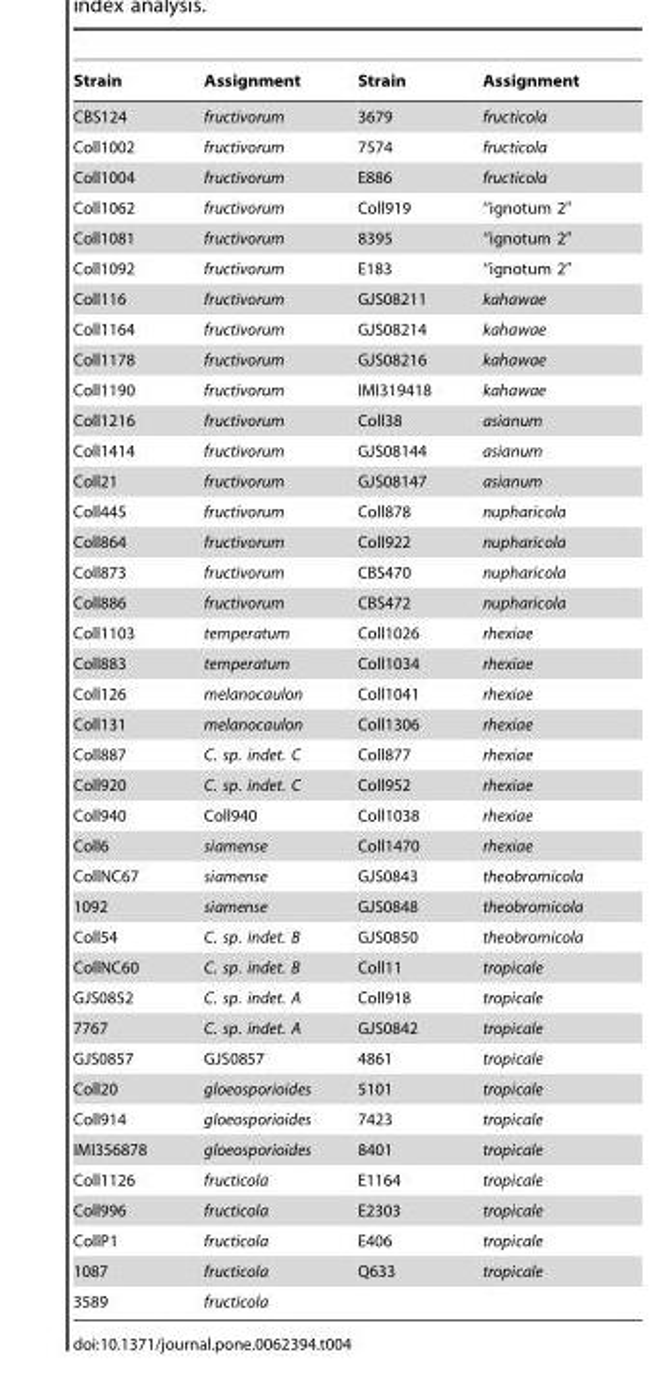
<table><thead><tr><td>Strain</td><td>Assignment</td><td>Strain</td><td>Assignment</td></tr></thead><tbody><tr><td>CBS124</td><td>fructivorum</td><td>3679</td><td>fructicola</td></tr><tr><td>Coll1002</td><td>fructivorum</td><td>7574</td><td>fructicola</td></tr><tr><td>Coll1004</td><td>fructivorum</td><td>E886</td><td>fructicola</td></tr><tr><td>Coll1062</td><td>fructivorum</td><td>Coll919</td><td>‘‘ignotum 20</td></tr><tr><td>Coll1081</td><td>fructivorum</td><td>8395</td><td>‘‘ignotum 20</td></tr><tr><td>Coll1092</td><td>fructivorum</td><td>E183</td><td>‘‘ignotum 20</td></tr><tr><td>Coll116</td><td>fructivorum</td><td>GJS08211</td><td>kahawae</td></tr><tr><td>Coll1164</td><td>fructivorum</td><td>GJS08214</td><td>kahawae</td></tr><tr><td>Coll1178</td><td>fructivorum</td><td>GJS08216</td><td>kahawae</td></tr><tr><td>Coll1190</td><td>fructivorum</td><td>IMI319418</td><td>kahawae</td></tr><tr><td>Coll1216</td><td>fructivorum</td><td>Coll38</td><td>asianum</td></tr><tr><td>Coll1414</td><td>fructivorum</td><td>GJS08144</td><td>asianum</td></tr><tr><td>Coll21</td><td>fructivorum</td><td>GJS08147</td><td>asianum</td></tr><tr><td>Coll445</td><td>fructivorum</td><td>Coll878</td><td>nupharicola</td></tr><tr><td>Coll864</td><td>fructivorum</td><td>Coll922</td><td>nupharicola</td></tr><tr><td>Coll873</td><td>fructivorum</td><td>CBS470</td><td>nupharicola</td></tr><tr><td>Coll886</td><td>fructivorum</td><td>CBS472</td><td>nupharicola</td></tr><tr><td>Coll1103</td><td>temperatum</td><td>Coll1026</td><td>rhexiae</td></tr><tr><td>Coll883</td><td>temperatum</td><td>Coll1034</td><td>rhexiae</td></tr><tr><td>Coll126</td><td>melanocaulon</td><td>Coll1041</td><td>rhexiae</td></tr><tr><td>Coll131</td><td>melanocaulon</td><td>Coll1306</td><td>rhexiae</td></tr><tr><td>Coll887</td><td>C. sp. indet. C</td><td>Coll877</td><td>rhexiae</td></tr><tr><td>Coll920</td><td>C. sp. indet. C</td><td>Coll952</td><td>rhexiae</td></tr><tr><td>Coll940</td><td>Coll940</td><td>Coll1038</td><td>rhexiae</td></tr><tr><td>Coll6</td><td>siamense</td><td>Coll1470</td><td>rhexiae</td></tr><tr><td>CollNC67</td><td>siamense</td><td>GJS0843</td><td>theobromicola</td></tr><tr><td>1092</td><td>siamense</td><td>GJS0848</td><td>theobromicola</td></tr><tr><td>Coll54</td><td>C. sp. indet. B</td><td>GJS0850</td><td>theobromicola</td></tr><tr><td>CollNC60</td><td>C. sp. indet. B</td><td>Coll11</td><td>tropicale</td></tr><tr><td>GJS0852</td><td>C. sp. indet. A</td><td>Coll918</td><td>tropicale</td></tr><tr><td>7767</td><td>C. sp. indet. A</td><td>GJS0842</td><td>tropicale</td></tr><tr><td>GJS0857</td><td>GJS0857</td><td>4861</td><td>tropicale</td></tr><tr><td>Coll20</td><td>gloeosporioides</td><td>5101</td><td>tropicale</td></tr><tr><td>Coll914</td><td>gloeosporioides</td><td>7423</td><td>tropicale</td></tr><tr><td>IMI356878</td><td>gloeosporioides</td><td>8401</td><td>tropicale</td></tr><tr><td>Coll1126</td><td>fructicola</td><td>E1164</td><td>tropicale</td></tr><tr><td>Coll996</td><td>fructicola</td><td>E2303</td><td>tropicale</td></tr><tr><td>CollP1</td><td>fructicola</td><td>E406</td><td>tropicale</td></tr><tr><td>1087</td><td>fructicola</td><td>Q633</td><td>tropicale</td></tr><tr><td>3589</td><td>fructicola</td><td></td><td></td></tr></tbody></table>